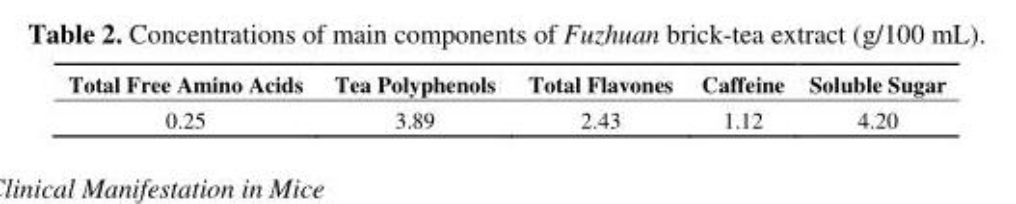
<table><thead><tr><td>Total Free Amino Acids</td><td>Tea Polyphenols</td><td>Total Flavones</td><td>Caffeine</td><td>Soluble Sugar</td></tr></thead><tbody><tr><td>0.25</td><td>3.89</td><td>2.43</td><td>1.12</td><td>4.20</td></tr></tbody></table>